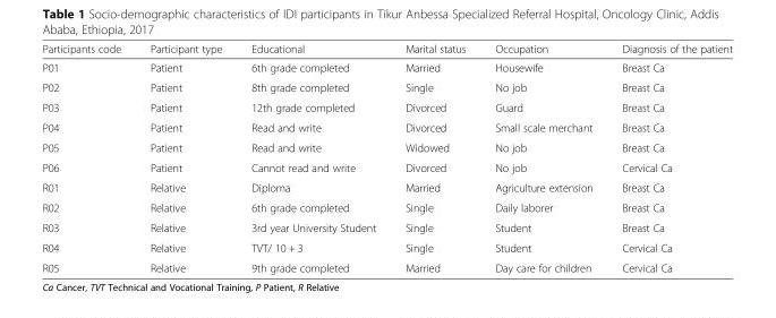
<table><thead><tr><td>Participants code</td><td>Participant type</td><td>Educational</td><td>Marital status</td><td>Occupation</td><td>Diagnosis of the patient</td></tr></thead><tbody><tr><td>P01</td><td>Patient</td><td>6th grade completed</td><td>Married</td><td>Housewife</td><td>Breast Ca</td></tr><tr><td>P02</td><td>Patient</td><td>8th grade completed</td><td>Single</td><td>No job</td><td>Breast Ca</td></tr><tr><td>P03</td><td>Patient</td><td>12th grade completed</td><td>Divorced</td><td>Guard</td><td>Breast Ca</td></tr><tr><td>P04</td><td>Patient</td><td>Read and write</td><td>Divorced</td><td>Small scale merchant</td><td>Breast Ca</td></tr><tr><td>P05</td><td>Patient</td><td>Read and write</td><td>Widowed</td><td>No job</td><td>Breast Ca</td></tr><tr><td>P06</td><td>Patient</td><td>Cannot read and write</td><td>Divorced</td><td>No job</td><td>Cervical Ca</td></tr><tr><td>R01</td><td>Relative</td><td>Diploma</td><td>Married</td><td>Agriculture extension</td><td>Breast Ca</td></tr><tr><td>R02</td><td>Relative</td><td>6th grade completed</td><td>Single</td><td>Daily laborer</td><td>Breast Ca</td></tr><tr><td>R03</td><td>Relative</td><td>3rd year University Student</td><td>Single</td><td>Student</td><td>Breast Ca</td></tr><tr><td>R04</td><td>Relative</td><td>TVT/ 10 + 3</td><td>Single</td><td>Student</td><td>Cervical Ca</td></tr><tr><td>R05</td><td>Relative</td><td>9th grade completed</td><td>Married</td><td>Day care for children</td><td>Cervical Ca</td></tr></tbody></table>